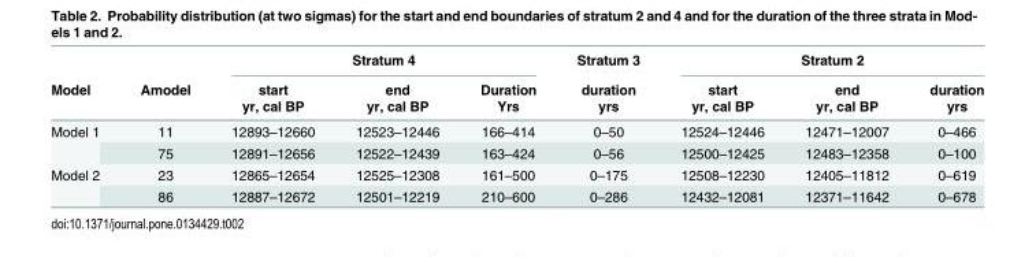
<table><thead><tr><td rowspan="3">Model</td><td rowspan="3">Amodel</td><td colspan="3">Stratum 4</td><td rowspan="3">Stratum 3 duration yrs</td><td colspan="3">Stratum 2</td></tr><tr><td rowspan="2">start yr, cal BP</td><td rowspan="2">end yr, cal BP</td><td rowspan="2">Duration Yrs</td><td rowspan="2">start yr, cal BP</td><td rowspan="2">end yr, cal BP</td><td rowspan="2">duration yrs</td></tr><tr></tr></thead><tbody><tr><td rowspan="2">Model 1</td><td>11</td><td>12893–12660</td><td>12523–12446</td><td>166–414</td><td>0–50</td><td>12524–12446</td><td>12471–12007</td><td>0–466</td></tr><tr><td>75</td><td>12891–12656</td><td>12522–12439</td><td>163–424</td><td>0–56</td><td>12500–12425</td><td>12483–12358</td><td>0–100</td></tr><tr><td rowspan="2">Model 2</td><td>23</td><td>12865–12654</td><td>12525–12308</td><td>161–500</td><td>0–175</td><td>12508–12230</td><td>12405–11812</td><td>0–619</td></tr><tr><td>86</td><td>12887–12672</td><td>12501–12219</td><td>210–600</td><td>0–286</td><td>12432–12081</td><td>12371–11642</td><td>0–678</td></tr></tbody></table>